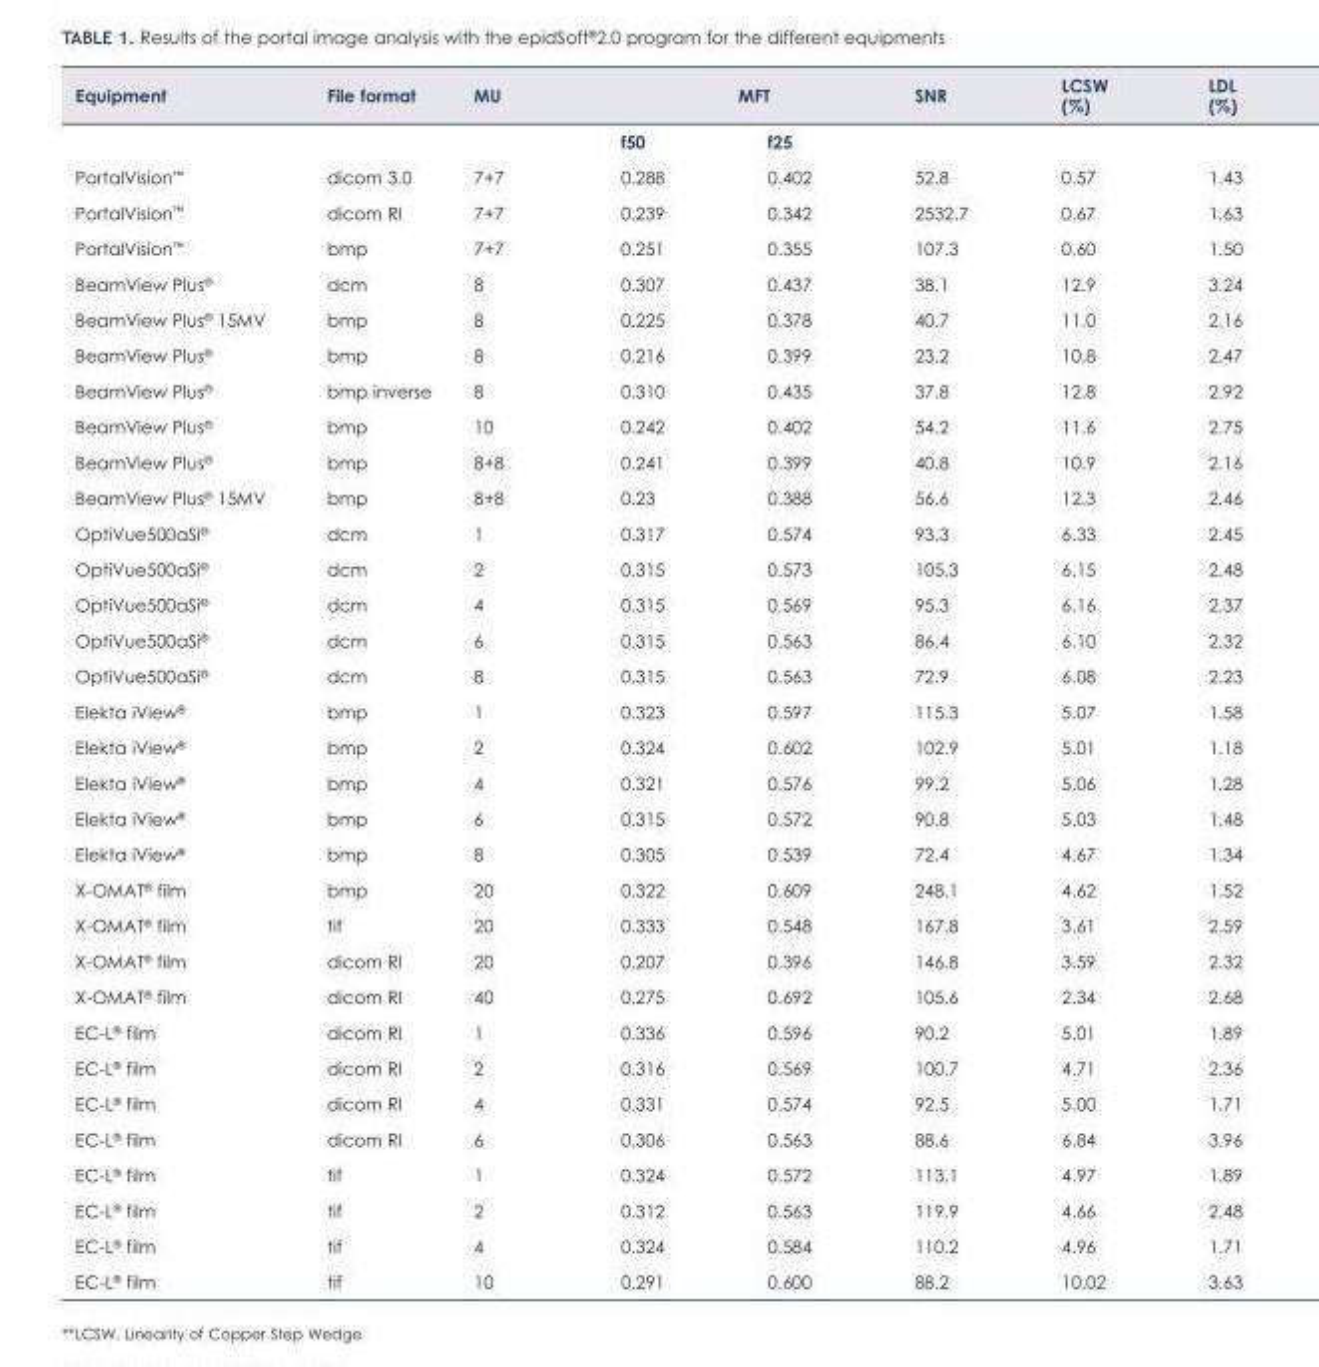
<table><thead><tr><td rowspan="2">Equipment</td><td rowspan="2">File format</td><td rowspan="2">MU</td><td colspan="2">MFT</td><td rowspan="2">SNR</td><td rowspan="2">LCSW (%)</td><td rowspan="2">LDL (%)</td></tr><tr><td>f50</td><td>f25</td></tr></thead><tbody><tr><td>PortalVision<sup>™</sup></td><td>dicom 3.0</td><td>7+7</td><td>0.288</td><td>0.402</td><td>52.8</td><td>0.57</td><td>1.43</td></tr><tr><td>PortalVision<sup>™</sup></td><td>dicom RI</td><td>7+7</td><td>0.239</td><td>0.342</td><td>2532.7</td><td>0.67</td><td>1.63</td></tr><tr><td>PortalVision<sup>™</sup></td><td>bmp</td><td>7+7</td><td>0.251</td><td>0.355</td><td>107.3</td><td>0.60</td><td>1.50</td></tr><tr><td>BeamView Plus<sup>®</sup></td><td>dcm</td><td>8</td><td>0.307</td><td>0.437</td><td>38.1</td><td>12.9</td><td>3.24</td></tr><tr><td>BeamView Plus<sup>®</sup> 15MV</td><td>bmp</td><td>8</td><td>0.225</td><td>0.378</td><td>40.7</td><td>11.0</td><td>2.16</td></tr><tr><td>BeamView Plus<sup>®</sup></td><td>bmp</td><td>8</td><td>0.216</td><td>0.399</td><td>23.2</td><td>10.8</td><td>2.47</td></tr><tr><td>BeamView Plus<sup>®</sup></td><td>bmp inverse</td><td>8</td><td>0.310</td><td>0.435</td><td>37.8</td><td>12.8</td><td>2.92</td></tr><tr><td>BeamView Plus<sup>®</sup></td><td>bmp</td><td>10</td><td>0.242</td><td>0.402</td><td>54.2</td><td>11.6</td><td>2.75</td></tr><tr><td>BeamView Plus<sup>®</sup></td><td>bmp</td><td>8+8</td><td>0.241</td><td>0.399</td><td>40.8</td><td>10.9</td><td>2.16</td></tr><tr><td>BeamView Plus<sup>®</sup> 15MV</td><td>bmp</td><td>8+8</td><td>0.23</td><td>0.388</td><td>56.6</td><td>12.3</td><td>2.46</td></tr><tr><td>OptiVue500aSi<sup>®</sup></td><td>dcm</td><td>1</td><td>0.317</td><td>0.574</td><td>93.3</td><td>6.33</td><td>2.45</td></tr><tr><td>OptiVue500aSi<sup>®</sup></td><td>dcm</td><td>2</td><td>0.315</td><td>0.573</td><td>105.3</td><td>6.15</td><td>2.48</td></tr><tr><td>OptiVue500aSi<sup>®</sup></td><td>dcm</td><td>4</td><td>0.315</td><td>0.569</td><td>95.3</td><td>6.16</td><td>2.37</td></tr><tr><td>OptiVue500aSi<sup>®</sup></td><td>dcm</td><td>6</td><td>0.315</td><td>0.563</td><td>86.4</td><td>6.10</td><td>2.32</td></tr><tr><td>OptiVue500aSi<sup>®</sup></td><td>dcm</td><td>8</td><td>0.315</td><td>0.563</td><td>72.9</td><td>6.08</td><td>2.23</td></tr><tr><td>Elekta iView<sup>®</sup></td><td>bmp</td><td>1</td><td>0.323</td><td>0.597</td><td>115.3</td><td>5.07</td><td>1.58</td></tr><tr><td>Elekta iView<sup>®</sup></td><td>bmp</td><td>2</td><td>0.324</td><td>0.602</td><td>102.9</td><td>5.01</td><td>1.18</td></tr><tr><td>Elekta iView<sup>®</sup></td><td>bmp</td><td>4</td><td>0.321</td><td>0.576</td><td>99.2</td><td>5.06</td><td>1.28</td></tr><tr><td>Elekta iView<sup>®</sup></td><td>bmp</td><td>6</td><td>0.315</td><td>0.572</td><td>90.8</td><td>5.03</td><td>1.48</td></tr><tr><td>Elekta iView<sup>®</sup></td><td>bmp</td><td>8</td><td>0.305</td><td>0.539</td><td>72.4</td><td>4.67</td><td>1.34</td></tr><tr><td>X-OMAT<sup>®</sup> film</td><td>bmp</td><td>20</td><td>0.322</td><td>0.609</td><td>248.1</td><td>4.62</td><td>1.52</td></tr><tr><td>X-OMAT<sup>®</sup> film</td><td>tif</td><td>20</td><td>0.333</td><td>0.548</td><td>167.8</td><td>3.61</td><td>2.59</td></tr><tr><td>X-OMAT<sup>®</sup> film</td><td>dicom RI</td><td>20</td><td>0.207</td><td>0.396</td><td>146.8</td><td>3.59</td><td>2.32</td></tr><tr><td>X-OMAT<sup>®</sup> film</td><td>dicom RI</td><td>40</td><td>0.275</td><td>0.692</td><td>105.6</td><td>2.34</td><td>2.68</td></tr><tr><td>EC-L<sup>®</sup> film</td><td>dicom RI</td><td>1</td><td>0.336</td><td>0.596</td><td>90.2</td><td>5.01</td><td>1.89</td></tr><tr><td>EC-L<sup>®</sup> film</td><td>dicom RI</td><td>2</td><td>0.316</td><td>0.569</td><td>100.7</td><td>4.71</td><td>2.36</td></tr><tr><td>EC-L<sup>®</sup> film</td><td>dicom RI</td><td>4</td><td>0.331</td><td>0.574</td><td>92.5</td><td>5.00</td><td>1.71</td></tr><tr><td>EC-L<sup>®</sup> film</td><td>dicom RI</td><td>6</td><td>0.306</td><td>0.563</td><td>88.6</td><td>6.84</td><td>3.96</td></tr><tr><td>EC-L<sup>®</sup> film</td><td>tif</td><td>1</td><td>0.324</td><td>0.572</td><td>113.1</td><td>4.97</td><td>1.89</td></tr><tr><td>EC-L<sup>®</sup> film</td><td>tif</td><td>2</td><td>0.312</td><td>0.563</td><td>119.9</td><td>4.66</td><td>2.48</td></tr><tr><td>EC-L<sup>®</sup> film</td><td>tif</td><td>4</td><td>0.324</td><td>0.584</td><td>110.2</td><td>4.96</td><td>1.71</td></tr><tr><td>EC-L<sup>®</sup> film</td><td>tif</td><td>10</td><td>0.291</td><td>0.600</td><td>88.2</td><td>10.02</td><td>3.63</td></tr></tbody></table>